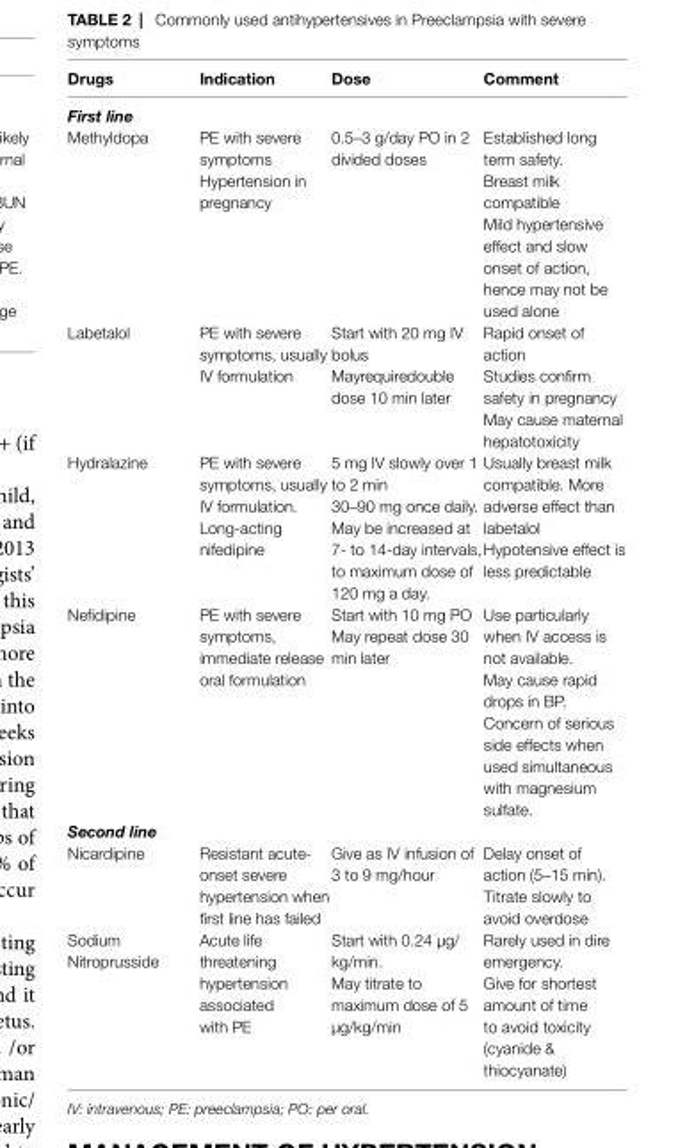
<table><thead><tr><td>Drugs</td><td>indication</td><td>Dose</td><td>comment</td></tr></thead><tbody><tr><td colspan="4">First line</td></tr><tr><td>Methyldopa</td><td>PE with severe symptoms Hypertension in pregnancy</td><td>0.5–3 g/day PO in 2 divided doses</td><td>Established long term safety. Breast milk compatible Mild hypertensive effect and slow onset of action, hence may not be used alone</td></tr><tr><td>Labetalol</td><td>PE with severe symptoms, usually IV formulation</td><td>Start with 20 mg IV bolus Mayrequiredouble dose 10 min later</td><td>Rapid onset of action Studies confirm safety in pregnancy May cause maternal hepatotoxicity</td></tr><tr><td>Hydralazine</td><td>PE with severe symptoms, usually IV formulation. Long-acting nifedipine</td><td>5 mg IV slowly over 1 to 2 min 30–90 mg once daily. May be increased at 7- to 14-day intervals, to maximum dose of 120 mg a day.</td><td>Usually breast milk compatible. More adverse effect than labetalol Hypotensive effect is less predictable</td></tr><tr><td>Nefidipine</td><td>PE with severe symptoms, immediate release oral formulation</td><td>Start with 10 mg PO May repeat dose 30 min later</td><td>Use particularly when IV access is not available. May cause rapid drops in BP. Concern of serious side effects when used simultaneous with magnesium sulfate.</td></tr><tr><td colspan="4">Second line</td></tr><tr><td>Nicardipine</td><td>Resistant acute- onset severe hypertension when first line has failed</td><td>Give as IV infusion of 3 to 9 mg/hour</td><td>Delay onset of action (5–15 min). Titrate slowly to avoid overdose</td></tr><tr><td>Sodium Nitroprusside</td><td>Acute life threatening hypertension associated with PE</td><td>Start with 0.24 µg/ kg/min. May titrate to maximum dose of 5 µg/kg/min</td><td>Rarely used in dire emergency. Give for shortest amount of time to avoid toxicity (cyanide &amp; thiocyanate)</td></tr></tbody></table>